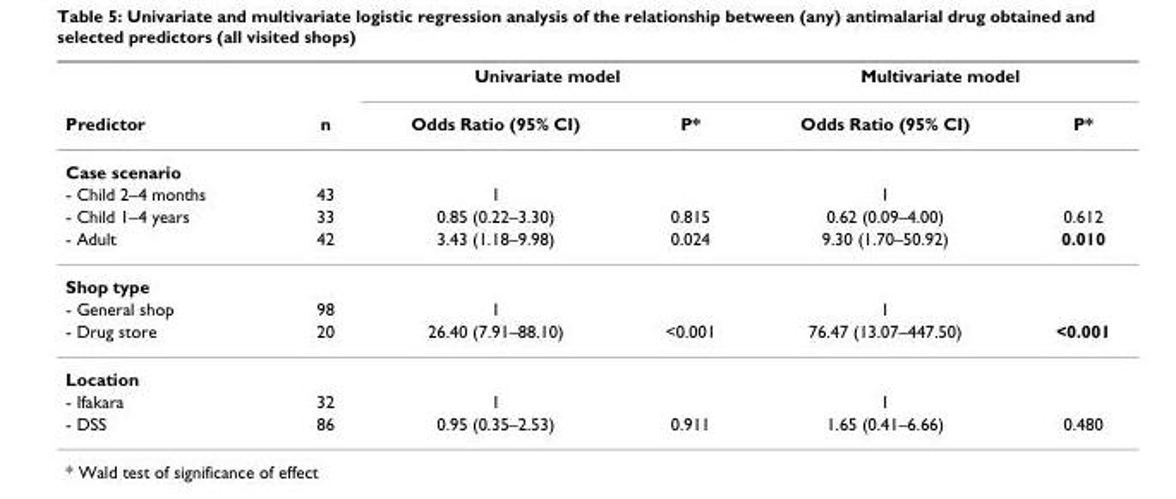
<table><thead><tr><td rowspan="2">Predictor</td><td rowspan="2">n</td><td colspan="2">Univariate model</td><td colspan="2">Multivariate model</td></tr><tr><td>Odds Ratio (95% CI)</td><td>P*</td><td>Odds Ratio (95% CI)</td><td>P*</td></tr></thead><tbody><tr><td colspan="6">Case scenario</td></tr><tr><td>- Child 2–4 months</td><td>43</td><td>1</td><td></td><td>1</td><td></td></tr><tr><td>- Child 1–4 years</td><td>33</td><td>0.85 (0.22–3.30)</td><td>0.815</td><td>0.62 (0.09–4.00)</td><td>0.612</td></tr><tr><td>- Adult</td><td>42</td><td>3.43 (1.18–9.98)</td><td>0.024</td><td>9.30 (1.70–50.92)</td><td>0.010</td></tr><tr><td colspan="6">Shop type</td></tr><tr><td>- General shop</td><td>98</td><td>1</td><td></td><td>1</td><td></td></tr><tr><td>- Drug store</td><td>20</td><td>26.40 (7.91–88.10)</td><td>&lt;0.001</td><td>76.47 (13.07–447.50)</td><td>&lt;0.001</td></tr><tr><td colspan="6">Location</td></tr><tr><td>- Ifakara</td><td>32</td><td>1</td><td></td><td>1</td><td></td></tr><tr><td>- DSS</td><td>86</td><td>0.95 (0.35–2.53)</td><td>0.911</td><td>1.65 (0.41–6.66)</td><td>0.480</td></tr></tbody></table>